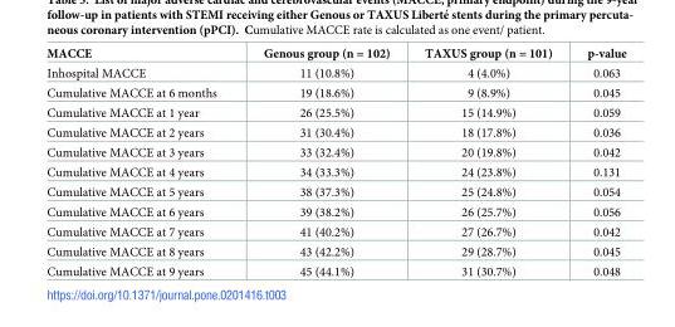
<table><thead><tr><td>MACCE</td><td>Genous group (n = 102)</td><td>TAXUS group (n = 101)</td><td>p-value</td></tr></thead><tbody><tr><td>Inhospital MACCE</td><td>11 (10.8%)</td><td>4 (4.0%)</td><td>0.063</td></tr><tr><td>Cumulative MACCE at 6 months</td><td>19 (18.6%)</td><td>9 (8.9%)</td><td>0.045</td></tr><tr><td>Cumulative MACCE at 1 year</td><td>26 (25.5%)</td><td>15 (14.9%)</td><td>0.059</td></tr><tr><td>Cumulative MACCE at 2 years</td><td>31 (30.4%)</td><td>18 (17.8%)</td><td>0.036</td></tr><tr><td>Cumulative MACCE at 3 years</td><td>33 (32.4%)</td><td>20 (19.8%)</td><td>0.042</td></tr><tr><td>Cumulative MACCE at 4 years</td><td>34 (33.3%)</td><td>24 (23.8%)</td><td>0.131</td></tr><tr><td>Cumulative MACCE at 5 years</td><td>38 (37.3%)</td><td>25 (24.8%)</td><td>0.054</td></tr><tr><td>Cumulative MACCE at 6 years</td><td>39 (38.2%)</td><td>26 (25.7%)</td><td>0.056</td></tr><tr><td>Cumulative MACCE at 7 years</td><td>41 (40.2%)</td><td>27 (26.7%)</td><td>0.042</td></tr><tr><td>Cumulative MACCE at 8 years</td><td>43 (42.2%)</td><td>29 (28.7%)</td><td>0.045</td></tr><tr><td>Cumulative MACCE at 9 years</td><td>45 (44.1%)</td><td>31 (30.7%)</td><td>0.048</td></tr></tbody></table>